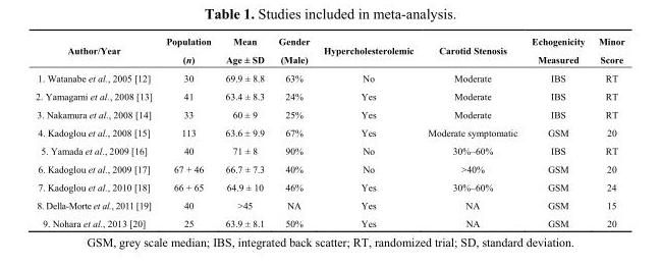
<table><thead><tr><td>Author/Year</td><td>Population (n)</td><td>Mean Age ± SD</td><td>Gender (Male)</td><td>Hypercholesterolemic</td><td>Carotid Stenosis</td><td>Echogenicity Measured</td><td>Minor Score</td></tr></thead><tbody><tr><td>1. Watanabe et al., 2005 [12]</td><td>30</td><td>69.9 ± 8.8</td><td>63%</td><td>No</td><td>Moderate</td><td>IBS</td><td>RT</td></tr><tr><td>2. Yamagami et al., 2008 [13]</td><td>41</td><td>63.4 ± 8.3</td><td>24%</td><td>Yes</td><td>Moderate</td><td>IBS</td><td>RT</td></tr><tr><td>3. Nakamura et al., 2008 [14]</td><td>33</td><td>60 ± 9</td><td>25%</td><td>Yes</td><td>Moderate</td><td>IBS</td><td>RT</td></tr><tr><td>4. Kadoglou et al., 2008 [15]</td><td>113</td><td>63.6 ± 9.9</td><td>67%</td><td>Yes</td><td>Moderate symptomatic</td><td>GSM</td><td>20</td></tr><tr><td>5. Yamada et al., 2009 [16]</td><td>40</td><td>71 ± 8</td><td>90%</td><td>No</td><td>30%–60%</td><td>IBS</td><td>RT</td></tr><tr><td>6. Kadoglou et al., 2009 [17]</td><td>67 + 46</td><td>66.7 ± 7.3</td><td>40%</td><td>No</td><td>&gt;40%</td><td>GSM</td><td>20</td></tr><tr><td>7. Kadoglou et al., 2010 [18]</td><td>66 + 65</td><td>64.9 ± 10</td><td>46%</td><td>Yes</td><td>30%–60%</td><td>GSM</td><td>24</td></tr><tr><td>8. Della-Morte et al., 2011 [19]</td><td>40</td><td>&gt;45</td><td>NA</td><td>Yes</td><td>NA</td><td>GSM</td><td>15</td></tr><tr><td>9. Nohara et al., 2013 [20]</td><td>25</td><td>63.9 ± 8.1</td><td>50%</td><td>Yes</td><td>NA</td><td>GSM</td><td>20</td></tr></tbody></table>